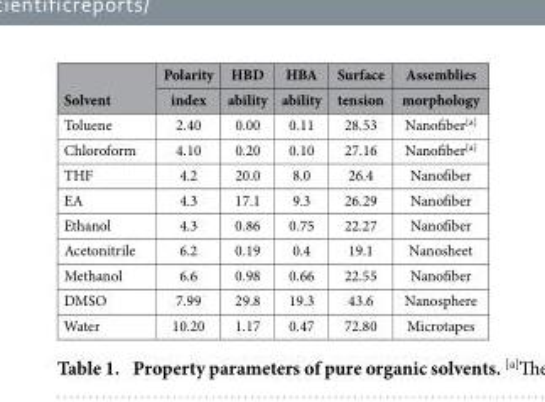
<table><thead><tr><td rowspan="2">Solvent</td><td rowspan="2">Polarity index</td><td rowspan="2">HBD ability</td><td rowspan="2">HBA ability</td><td rowspan="2">Surface tension</td><td rowspan="2">Assemblies morphology</td></tr><tr></tr></thead><tbody><tr><td>Toluene</td><td>2.40</td><td>0.00</td><td>0.11</td><td>28.53</td><td>Nanofiber[a]</td></tr><tr><td>Chloroform</td><td>4.10</td><td>0.20</td><td>0.10</td><td>27.16</td><td>Nanofiber[a]</td></tr><tr><td>THF</td><td>4.2</td><td>20.0</td><td>8.0</td><td>26.4</td><td>Nanofiber</td></tr><tr><td>EA</td><td>4.3</td><td>17.1</td><td>9.3</td><td>26.29</td><td>Nanofiber</td></tr><tr><td>Ethanol</td><td>4.3</td><td>0.86</td><td>0.75</td><td>22.27</td><td>Nanofiber</td></tr><tr><td>Acetonitrile</td><td>6.2</td><td>0.19</td><td>0.4</td><td>19.1</td><td>Nanosheet</td></tr><tr><td>Methanol</td><td>6.6</td><td>0.98</td><td>0.66</td><td>22.55</td><td>Nanofiber</td></tr><tr><td>DMSO</td><td>7.99</td><td>29.8</td><td>19.3</td><td>43.6</td><td>Nanosphere</td></tr><tr><td>Water</td><td>10.20</td><td>1.17</td><td>0.47</td><td>72.80</td><td>Microtapes</td></tr></tbody></table>